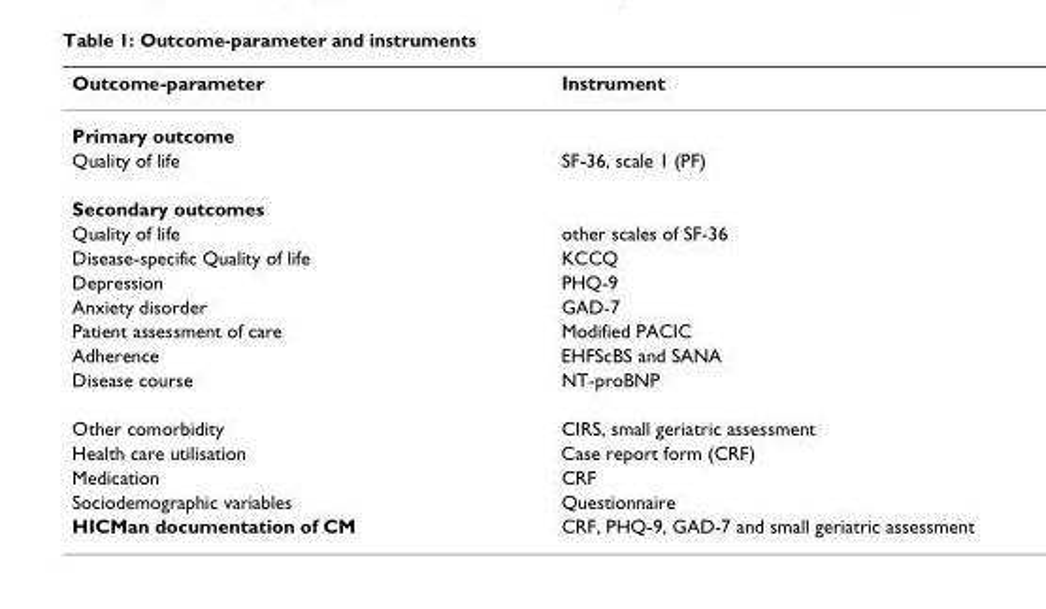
<table><thead><tr><td>Outcome-parameter</td><td>Instrument</td></tr></thead><tbody><tr><td colspan="2">Primary outcome</td></tr><tr><td>Quality of life</td><td>SF-36, scale 1 (PF)</td></tr><tr><td colspan="2">Secondary outcomes</td></tr><tr><td>Quality of life</td><td>other scales of SF-36</td></tr><tr><td>Disease-specific Quality of life</td><td>KCCQ</td></tr><tr><td>Depression</td><td>PHQ-9</td></tr><tr><td>Anxiety disorder</td><td>GAD-7</td></tr><tr><td>Patient assessment of care</td><td>Modified PACIC</td></tr><tr><td>Adherence</td><td>EHFScBS and SANA</td></tr><tr><td>Disease course</td><td>NT-proBNP</td></tr><tr><td>Other comorbidity</td><td>CIRS, small geriatric assessment</td></tr><tr><td>Health care utilisation</td><td>Case report form (CRF)</td></tr><tr><td>Medication</td><td>CRF</td></tr><tr><td>Sociodemographic variables</td><td>Questionnaire</td></tr><tr><td>HICMan documentation of CM</td><td>CRF, PHQ-9, GAD-7 and small geriatric assessment</td></tr></tbody></table>